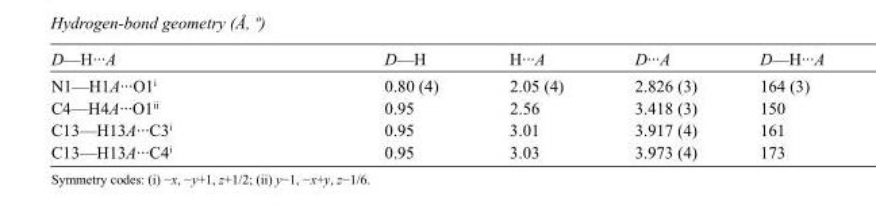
<table><tbody><tr><td>D—H···A</td><td>D—H</td><td>H···A</td><td>D···A</td><td>D—H···A</td></tr><tr><td>N1—H1A···O1<sup>i</sup></td><td>0.80 (4)</td><td>2.05 (4)</td><td>2.826 (3)</td><td>164 (3)</td></tr><tr><td>C4—H4A···O1<sup>ii</sup></td><td>0.95</td><td>2.56</td><td>3.418 (3)</td><td>150</td></tr><tr><td>C13—H13A···C3<sup>i</sup></td><td>0.95</td><td>3.01</td><td>3.917 (4)</td><td>161</td></tr><tr><td>C13—H13A···C4<sup>i</sup></td><td>0.95</td><td>3.03</td><td>3.973 (4)</td><td>173</td></tr></tbody></table>